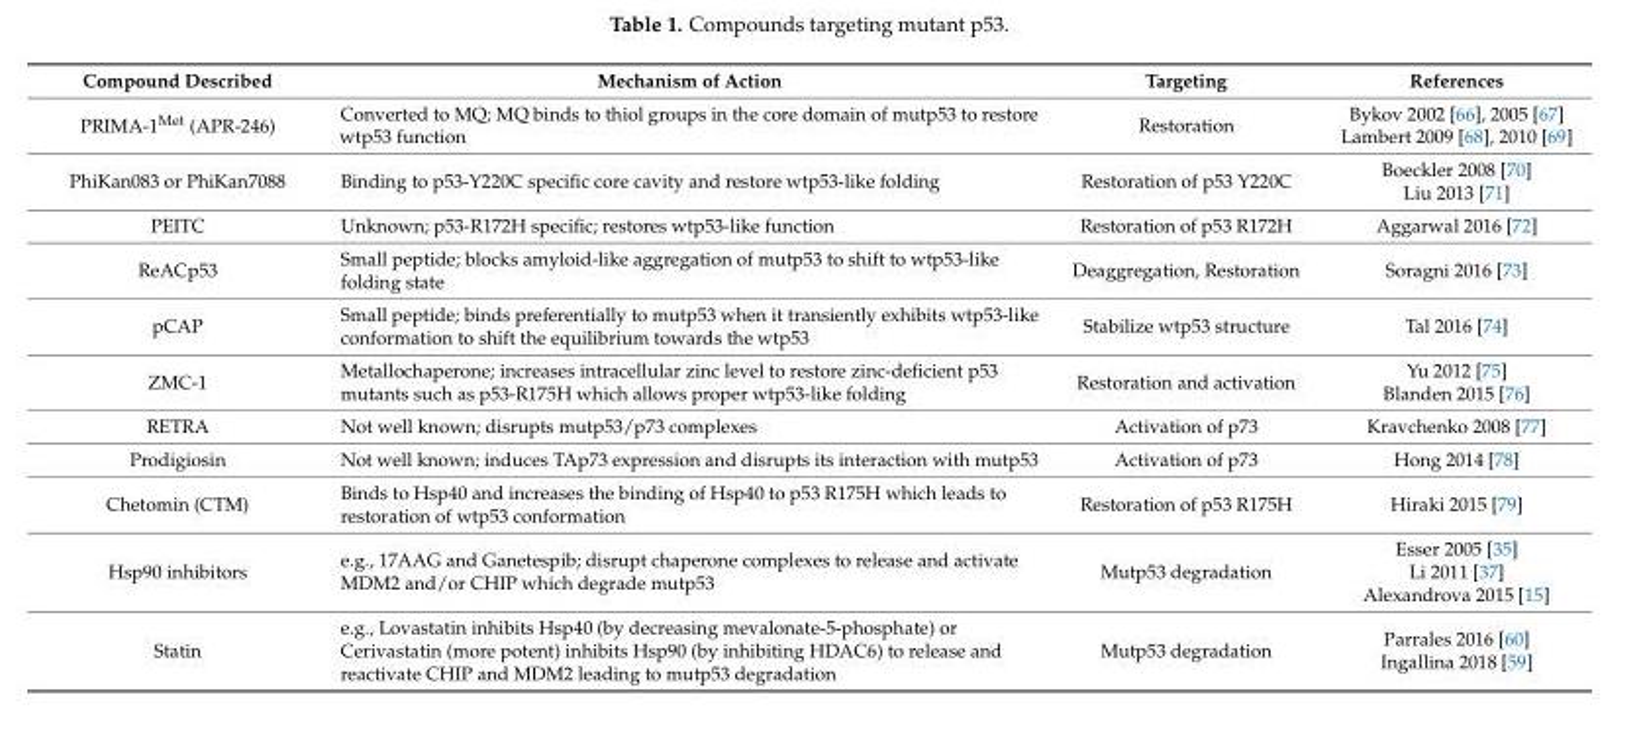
<table><thead><tr><td>Compound Described</td><td>Mechanism of Action</td><td>Targeting</td><td>References</td></tr></thead><tbody><tr><td>PRIMA-1<sup>Met</sup> (APR-246)</td><td>Converted to MQ; MQ binds to thiol groups in the core domain of mutp53 to restore wtp53 function</td><td>Restoration</td><td>Bykov 2002 [66], 2005 [67] Lambert 2009 [68], 2010 [69]</td></tr><tr><td>PhiKan083 or PhiKan7088</td><td>Binding to p53-Y220C specific core cavity and restore wtp53-like folding</td><td>Restoration of p53 Y220C</td><td>Boeckler 2008 [70] Liu 2013 [71]</td></tr><tr><td>PEITC</td><td>Unknown; p53-R172H specific; restores wtp53-like function</td><td>Restoration of p53 R172H</td><td>Aggarwal 2016 [72]</td></tr><tr><td>ReACp53</td><td>Small peptide; blocks amyloid-like aggregation of mutp53 to shift to wtp53-like folding state</td><td>Deaggregation, Restoration</td><td>Soragni 2016 [73]</td></tr><tr><td>pCAP</td><td>Small peptide; binds preferentially to mutp53 when it transiently exhibits wtp53-like conformation to shift the equilibrium towards the wtp53</td><td>Stabilize wtp53 structure</td><td>Tal 2016 [74]</td></tr><tr><td>ZMC-1</td><td>Metallochaperone; increases intracellular zinc level to restore zinc-deficient p53 mutants such as p53-R175H which allows proper wtp53-like folding</td><td>Restoration and activation</td><td>Yu 2012 [75] Blanden 2015 [76]</td></tr><tr><td>RETRA</td><td>Not well known; disrupts mutp53/p73 complexes</td><td>Activation of p73</td><td>Kravchenko 2008 [77]</td></tr><tr><td>Prodigiosin</td><td>Not well known; induces TAp73 expression and disrupts its interaction with mutp53</td><td>Activation of p73</td><td>Hong 2014 [78]</td></tr><tr><td>Chetomin (CTM)</td><td>Binds to Hsp40 and increases the binding of Hsp40 to p53 R175H which leads to restoration of wtp53 conformation</td><td>Restoration of p53 R175H</td><td>Hiraki 2015 [79]</td></tr><tr><td>Hsp90 inhibitors</td><td>e.g., 17AAG and Ganetespib; disrupt chaperone complexes to release and activate MDM2 and/or CHIP which degrade mutp53</td><td>Mutp53 degradation</td><td>Esser 2005 [35] Li 2011 [37] Alexandrova 2015 [15]</td></tr><tr><td>Statin</td><td>e.g., Lovastatin inhibits Hsp40 (by decreasing mevalonate-5-phosphate) or Cerivastatin (more potent) inhibits Hsp90 (by inhibiting HDAC6) to release and reactivate CHIP and MDM2 leading to mutp53 degradation</td><td>Mutp53 degradation</td><td>Parrales 2016 [60] Ingallina 2018 [59]</td></tr></tbody></table>